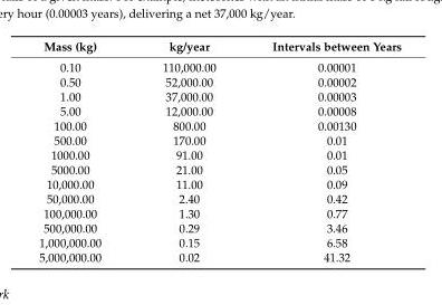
<table><thead><tr><td>Mass (kg)</td><td>kg/year</td><td>Intervals between Years</td></tr></thead><tbody><tr><td>0.10</td><td>110,000.00</td><td>0.00001</td></tr><tr><td>0.50</td><td>52,000.00</td><td>0.00002</td></tr><tr><td>1.00</td><td>37,000.00</td><td>0.00003</td></tr><tr><td>5.00</td><td>12,000.00</td><td>0.00008</td></tr><tr><td>100.00</td><td>800.00</td><td>0.00130</td></tr><tr><td>500.00</td><td>170.00</td><td>0.01</td></tr><tr><td>1000.00</td><td>91.00</td><td>0.01</td></tr><tr><td>5000.00</td><td>21.00</td><td>0.05</td></tr><tr><td>10,000.00</td><td>11.00</td><td>0.09</td></tr><tr><td>50,000.00</td><td>2.40</td><td>0.42</td></tr><tr><td>100,000.00</td><td>1.30</td><td>0.77</td></tr><tr><td>500,000.00</td><td>0.29</td><td>3.46</td></tr><tr><td>1,000,000.00</td><td>0.15</td><td>6.58</td></tr><tr><td>5,000,000.00</td><td>0.02</td><td>41.32</td></tr></tbody></table>